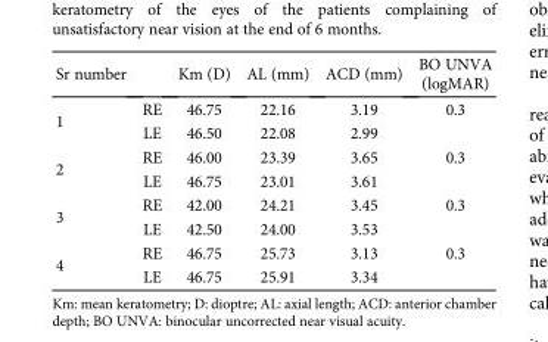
<table><thead><tr><td>Sr number</td><td></td><td>Km (D)</td><td>AL (mm)</td><td>ACD (mm)</td><td>BO UNVA (logMAR)</td></tr></thead><tbody><tr><td rowspan="2">1</td><td>RE</td><td>46.75</td><td>22.16</td><td>3.19</td><td>0.3</td></tr><tr><td>LE</td><td>46.50</td><td>22.08</td><td>2.99</td><td></td></tr><tr><td rowspan="2">2</td><td>RE</td><td>46.00</td><td>23.39</td><td>3.65</td><td>0.3</td></tr><tr><td>LE</td><td>46.75</td><td>23.01</td><td>3.61</td><td></td></tr><tr><td rowspan="2">3</td><td>RE</td><td>42.00</td><td>24.21</td><td>3.45</td><td>0.3</td></tr><tr><td>LE</td><td>42.50</td><td>24.00</td><td>3.53</td><td></td></tr><tr><td rowspan="2">4</td><td>RE</td><td>46.75</td><td>25.73</td><td>3.13</td><td>0.3</td></tr><tr><td>LE</td><td>46.75</td><td>25.91</td><td>3.34</td><td></td></tr></tbody></table>